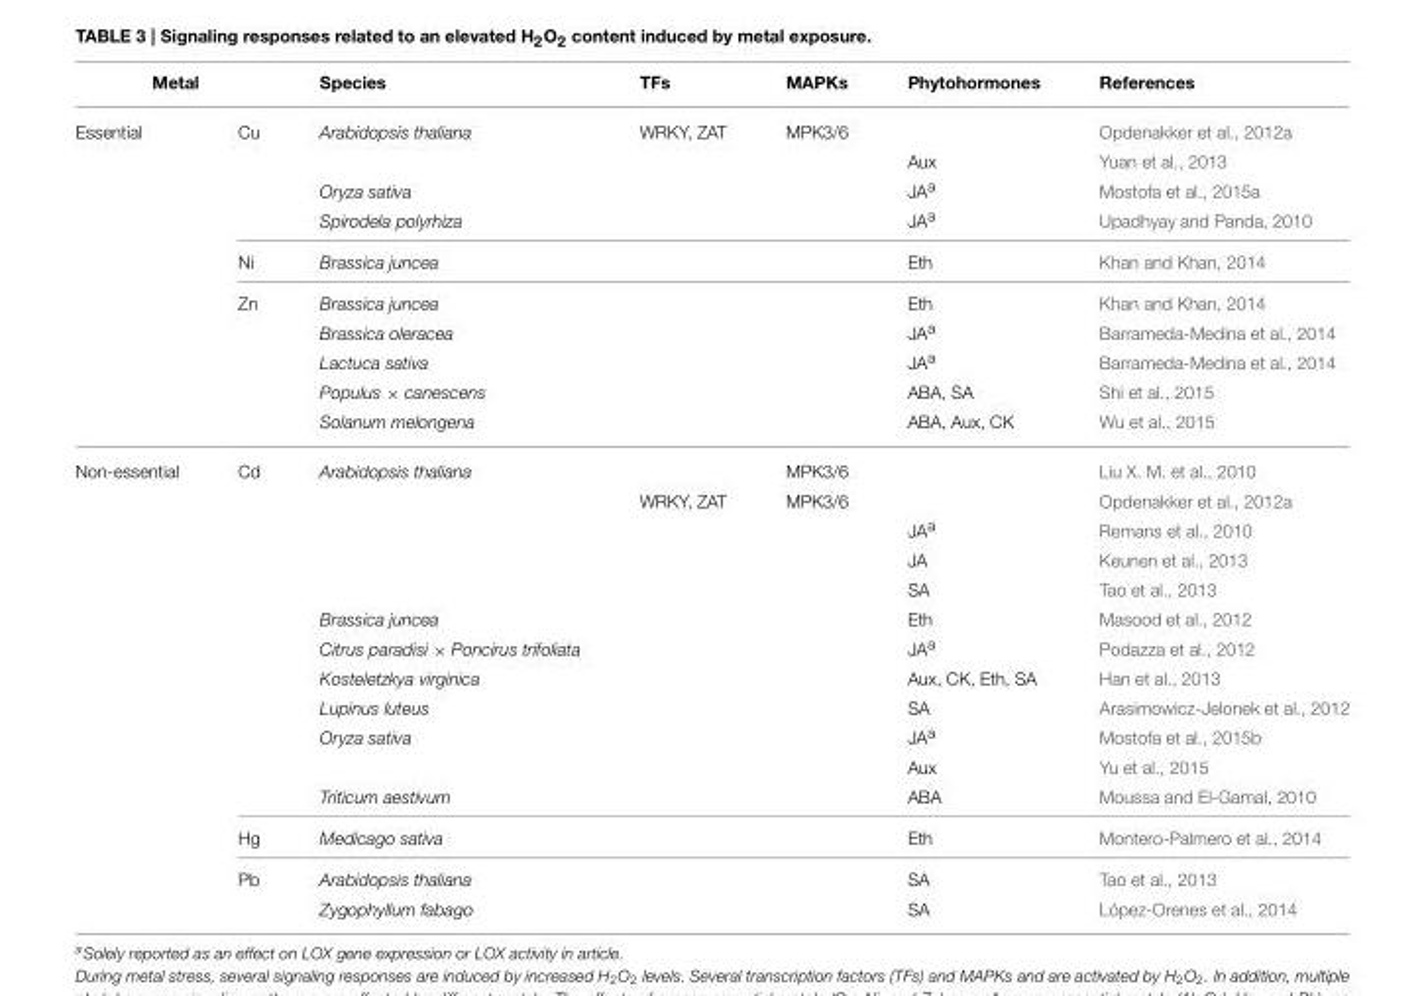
<table><thead><tr><td colspan="2">Metal</td><td rowspan="2">Species Arabidopsis thaliana</td><td rowspan="2">TFs WRKY, ZAT</td><td rowspan="2">MAPKs MPK3/6</td><td rowspan="2">Phytohormones</td><td rowspan="2">References Opdenakker et al., 2012a</td></tr><tr><td>Essential</td><td>Cu</td></tr></thead><tbody><tr><td></td><td></td><td></td><td></td><td></td><td>Aux</td><td>Yuan et al., 2013</td></tr><tr><td></td><td></td><td>Oryza sativa</td><td></td><td></td><td>JA<sup>a</sup></td><td>Mostofa et al., 2015a</td></tr><tr><td></td><td></td><td>Spirodela polyrhiza</td><td></td><td></td><td>JA<sup>a</sup></td><td>Upadhyay and Panda, 2010</td></tr><tr><td></td><td>Ni</td><td>Brassica juncea</td><td></td><td></td><td>Eth</td><td>Khan and Khan, 2014</td></tr><tr><td></td><td>Zn</td><td>Brassica juncea</td><td></td><td></td><td>Eth</td><td>Khan and Khan, 2014</td></tr><tr><td></td><td></td><td>Brassica oleracea</td><td></td><td></td><td>JA<sup>a</sup></td><td>Barrameda-Medina et al., 2014</td></tr><tr><td></td><td></td><td>Lactuca sativa</td><td></td><td></td><td>JA<sup>a</sup></td><td>Barrameda-Medina et al., 2014</td></tr><tr><td></td><td></td><td>Populus × canescens</td><td></td><td></td><td>ABA, SA</td><td>Shi et al., 2015</td></tr><tr><td></td><td></td><td>Solanum melongena</td><td></td><td></td><td>ABA, Aux, CK</td><td>Wu et al., 2015</td></tr><tr><td rowspan="15">Non-essential</td><td>Cd</td><td>Arabidopsis thaliana</td><td></td><td>MPK3/6</td><td></td><td>Liu X. M. et al., 2010</td></tr><tr><td></td><td></td><td>WRKY, ZAT</td><td>MPK3/6</td><td></td><td>Opdenakker et al., 2012a</td></tr><tr><td></td><td></td><td></td><td></td><td>JA<sup>a</sup></td><td>Remans et al., 2010</td></tr><tr><td></td><td></td><td></td><td></td><td>JA</td><td>Keunen et al., 2013</td></tr><tr><td></td><td></td><td></td><td></td><td>SA</td><td>Tao et al., 2013</td></tr><tr><td></td><td>Brassica juncea</td><td></td><td></td><td>Eth</td><td>Masood et al., 2012</td></tr><tr><td></td><td>Citrus paradisi × Poncirus trifoliata</td><td></td><td></td><td>JA<sup>a</sup></td><td>Podazza et al., 2012</td></tr><tr><td></td><td>Kosteletzkya virginica</td><td></td><td></td><td>Aux, CK, Eth, SA</td><td>Han et al., 2013</td></tr><tr><td></td><td>Lupinus luteus</td><td></td><td></td><td>SA</td><td>Arasimowicz-Jelonek et al., 2012</td></tr><tr><td></td><td>Oryza sativa</td><td></td><td></td><td>JA<sup>a</sup></td><td>Mostofa et al., 2015b</td></tr><tr><td></td><td></td><td></td><td></td><td>Aux</td><td>Yu et al., 2015</td></tr><tr><td></td><td>Triticum aestivum</td><td></td><td></td><td>ABA</td><td>Moussa and El-Gamal, 2010</td></tr><tr><td>Hg</td><td>Medicago sativa</td><td></td><td></td><td>Eth</td><td>Montero-Palmero et al., 2014</td></tr><tr><td>Pb</td><td>Arabidopsis thaliana</td><td></td><td></td><td>SA</td><td>Tao et al., 2013</td></tr><tr><td></td><td>Zygophyllum fabago</td><td></td><td></td><td>SA</td><td>López-Orenes et al., 2014</td></tr></tbody></table>